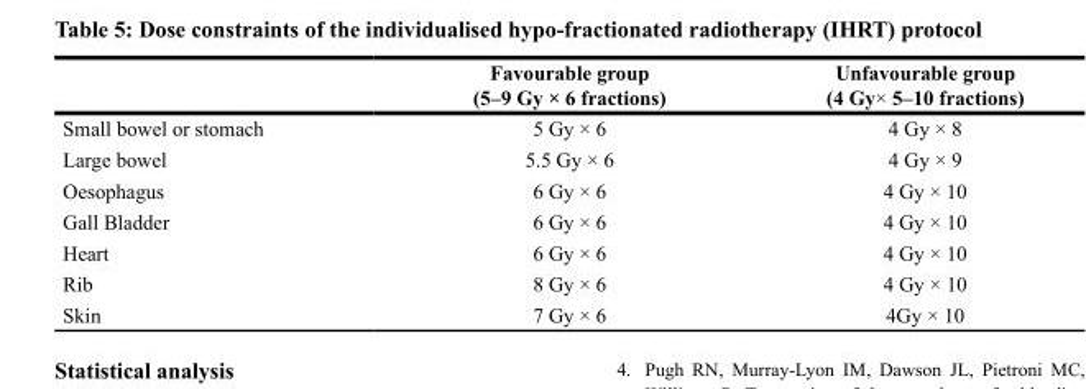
<table><thead><tr><td></td><td>Favourable group (5–9 Gy × 6 fractions)</td><td>Unfavourable group (4 Gy× 5–10 fractions)</td></tr></thead><tbody><tr><td>Small bowel or stomach</td><td>5 Gy × 6</td><td>4 Gy × 8</td></tr><tr><td>Large bowel</td><td>5.5 Gy × 6</td><td>4 Gy × 9</td></tr><tr><td>Oesophagus</td><td>6 Gy × 6</td><td>4 Gy × 10</td></tr><tr><td>Gall Bladder</td><td>6 Gy × 6</td><td>4 Gy × 10</td></tr><tr><td>Heart</td><td>6 Gy × 6</td><td>4 Gy × 10</td></tr><tr><td>Rib</td><td>8 Gy × 6</td><td>4 Gy × 10</td></tr><tr><td>Skin</td><td>7 Gy × 6</td><td>4Gy × 10</td></tr></tbody></table>